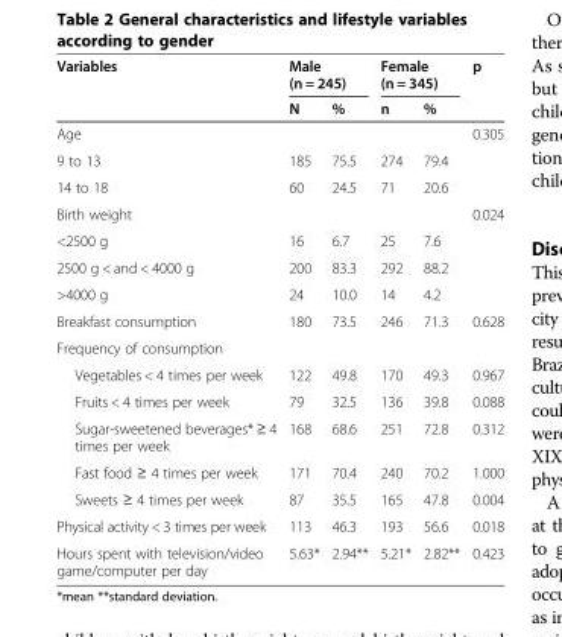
<table><thead><tr><td rowspan="2">Variables</td><td colspan="2">Male (n = 245)</td><td colspan="2">Female (n = 345)</td><td rowspan="2">p</td></tr><tr><td>N</td><td>%</td><td>n</td><td>%</td></tr></thead><tbody><tr><td>Age</td><td></td><td></td><td></td><td></td><td>0.305</td></tr><tr><td>9 to 13</td><td>185</td><td>75.5</td><td>274</td><td>79.4</td><td></td></tr><tr><td>14 to 18</td><td>60</td><td>24.5</td><td>71</td><td>20.6</td><td></td></tr><tr><td>Birth weight</td><td></td><td></td><td></td><td></td><td>0.024</td></tr><tr><td>&lt;2500 g</td><td>16</td><td>6.7</td><td>25</td><td>7.6</td><td></td></tr><tr><td>2500 g &lt; and &lt; 4000 g</td><td>200</td><td>83.3</td><td>292</td><td>88.2</td><td></td></tr><tr><td>&gt;4000 g</td><td>24</td><td>10.0</td><td>14</td><td>4.2</td><td></td></tr><tr><td>Breakfast consumption</td><td>180</td><td>73.5</td><td>246</td><td>71.3</td><td>0.628</td></tr><tr><td colspan="6">Frequency of consumption</td></tr><tr><td>Vegetables &lt; 4 times per week</td><td>122</td><td>49.8</td><td>170</td><td>49.3</td><td>0.967</td></tr><tr><td>Fruits &lt; 4 times per week</td><td>79</td><td>32.5</td><td>136</td><td>39.8</td><td>0.088</td></tr><tr><td>Sugar-sweetened beverages* ≥ 4 times per week</td><td>168</td><td>68.6</td><td>251</td><td>72.8</td><td>0.312</td></tr><tr><td>Fast food ≥ 4 times per week</td><td>171</td><td>70.4</td><td>240</td><td>70.2</td><td>1.000</td></tr><tr><td>Sweets ≥ 4 times per week</td><td>87</td><td>35.5</td><td>165</td><td>47.8</td><td>0.004</td></tr><tr><td>Physical activity &lt; 3 times per week</td><td>113</td><td>46.3</td><td>193</td><td>56.6</td><td>0.018</td></tr><tr><td>Hours spent with television/video game/computer per day</td><td>5.63*</td><td>2.94**</td><td>5.21*</td><td>2.82**</td><td>0.423</td></tr></tbody></table>